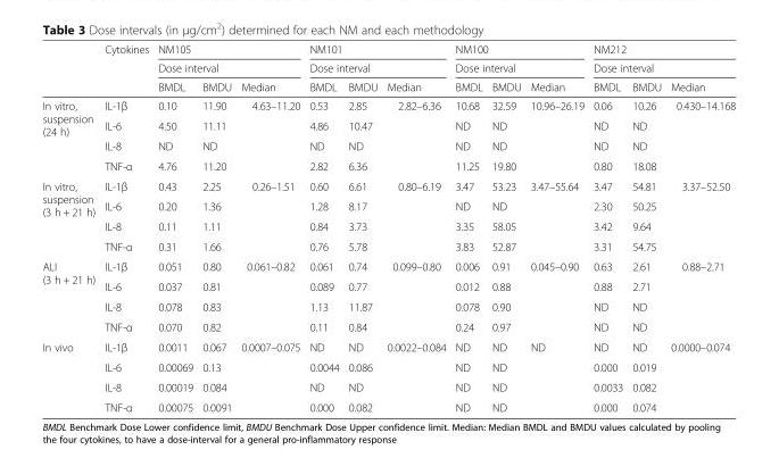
<table><thead><tr><td rowspan="3"></td><td rowspan="3">Cytokines</td><td rowspan="2" colspan="3">NM105 Dose interval</td><td rowspan="2" colspan="3">NM101 Dose interval</td><td rowspan="2" colspan="3">NM100 Dose interval</td><td rowspan="2" colspan="3">NM212 Dose interval</td></tr><tr></tr><tr><td>BMDL</td><td>BMDU</td><td>Median</td><td>BMDL</td><td>BMDU</td><td>Median</td><td>BMDL</td><td>BMDU</td><td>Median</td><td>BMDL</td><td>BMDU</td><td>Median</td></tr></thead><tbody><tr><td rowspan="4">In vitro, suspension (24 h)</td><td>IL-1β</td><td>0.10</td><td>11.90</td><td rowspan="4">4.63–11.20</td><td>0.53</td><td>2.85</td><td rowspan="4">2.82–6.36</td><td>10.68</td><td>32.59</td><td rowspan="4">10.96–26.19</td><td>0.06</td><td>10.26</td><td rowspan="4">0.430–14.168</td></tr><tr><td>IL-6</td><td>4.50</td><td>11.11</td><td>4.86</td><td>10.47</td><td>ND</td><td>ND</td><td>ND</td><td>ND</td></tr><tr><td>IL-8</td><td>ND</td><td>ND</td><td>ND</td><td>ND</td><td>ND</td><td>ND</td><td>ND</td><td>ND</td></tr><tr><td>TNF-α</td><td>4.76</td><td>11.20</td><td>2.82</td><td>6.36</td><td>11.25</td><td>19.80</td><td>0.80</td><td>18.08</td></tr><tr><td rowspan="4">In vitro, suspension (3 h + 21 h)</td><td>IL-1β</td><td>0.43</td><td>2.25</td><td rowspan="4">0.26–1.51</td><td>0.60</td><td>6.61</td><td rowspan="4">0.80–6.19</td><td>3.47</td><td>53.23</td><td rowspan="4">3.47–55.64</td><td>3.47</td><td>54.81</td><td rowspan="4">3.37–52.50</td></tr><tr><td>IL-6</td><td>0.20</td><td>1.36</td><td>1.28</td><td>8.17</td><td>ND</td><td>ND</td><td>2.30</td><td>50.25</td></tr><tr><td>IL-8</td><td>0.11</td><td>1.11</td><td>0.84</td><td>3.73</td><td>3.35</td><td>58.05</td><td>3.42</td><td>9.64</td></tr><tr><td>TNF-α</td><td>0.31</td><td>1.66</td><td>0.76</td><td>5.78</td><td>3.83</td><td>52.87</td><td>3.31</td><td>54.75</td></tr><tr><td rowspan="4">ALI (3 h + 21 h)</td><td>IL-1β</td><td>0.051</td><td>0.80</td><td rowspan="4">0.061–0.82</td><td>0.061</td><td>0.74</td><td rowspan="4">0.099–0.80</td><td>0.006</td><td>0.91</td><td rowspan="4">0.045–0.90</td><td>0.63</td><td>2.61</td><td rowspan="4">0.88–2.71</td></tr><tr><td>IL-6</td><td>0.037</td><td>0.81</td><td>0.089</td><td>0.77</td><td>0.012</td><td>0.88</td><td>0.88</td><td>2.71</td></tr><tr><td>IL-8</td><td>0.078</td><td>0.83</td><td>1.13</td><td>11.87</td><td>0.078</td><td>0.90</td><td>ND</td><td>ND</td></tr><tr><td>TNF-α</td><td>0.070</td><td>0.82</td><td>0.11</td><td>0.84</td><td>0.24</td><td>0.97</td><td>ND</td><td>ND</td></tr><tr><td rowspan="4">In vivo</td><td>IL-1β</td><td>0.0011</td><td>0.067</td><td rowspan="4">0.0007–0.075</td><td>ND</td><td>ND</td><td rowspan="4">0.0022–0.084</td><td>ND</td><td>ND</td><td rowspan="4">ND</td><td>ND</td><td>ND</td><td rowspan="4">0.0000–0.074</td></tr><tr><td>IL-6</td><td>0.00069</td><td>0.13</td><td>0.0044</td><td>0.086</td><td>ND</td><td>ND</td><td>0.000</td><td>0.019</td></tr><tr><td>IL-8</td><td>0.00019</td><td>0.084</td><td>ND</td><td>ND</td><td>ND</td><td>ND</td><td>0.0033</td><td>0.082</td></tr><tr><td>TNF-α</td><td>0.00075</td><td>0.0091</td><td>0.000</td><td>0.082</td><td>ND</td><td>ND</td><td>0.000</td><td>0.074</td></tr></tbody></table>